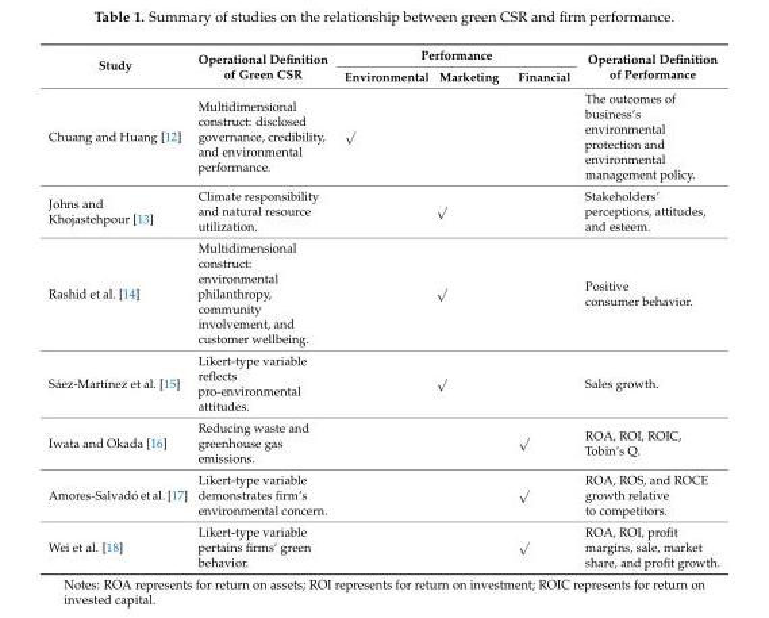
<table><thead><tr><td rowspan="2">Study</td><td rowspan="2">Operational Definition of Green CSR</td><td colspan="3">Performance</td><td rowspan="2">Operational Definition of Performance</td></tr><tr><td>Environmental</td><td>Marketing</td><td>Financial</td></tr></thead><tbody><tr><td>Chuang and Huang [12]</td><td>Multidimensional construct: disclosed governance, credibility, and environmental performance.</td><td>√</td><td></td><td></td><td>The outcomes of business’s environmental protection and environmental management policy.</td></tr><tr><td>Johns and Khojastehpour [13]</td><td>Climate responsibility and natural resource utilization.</td><td></td><td>√</td><td></td><td>Stakeholders’ perceptions, attitudes, and esteem.</td></tr><tr><td>Rashid et al. [14]</td><td>Multidimensional construct: environmental philanthropy, community involvement, and customer wellbeing.</td><td></td><td>√</td><td></td><td>Positive consumer behavior.</td></tr><tr><td>Sáez-Martínez et al. [15]</td><td>Likert-type variable reflects pro-environmental attitudes.</td><td></td><td>√</td><td></td><td>Sales growth.</td></tr><tr><td>Iwata and Okada [16]</td><td>Reducing waste and greenhouse gas emissions.</td><td></td><td></td><td>√</td><td>ROA, ROI, ROIC, Tobin’s Q.</td></tr><tr><td>Amores-Salvadó et al. [17]</td><td>Likert-type variable demonstrates firm’s environmental concern.</td><td></td><td></td><td>√</td><td>ROA, ROS, and ROCE growth relative to competitors.</td></tr><tr><td>Wei et al. [18]</td><td>Likert-type variable pertains firms’ green behavior.</td><td></td><td></td><td>√</td><td>ROA, ROI, profit margins, sale, market share, and profit growth.</td></tr></tbody></table>